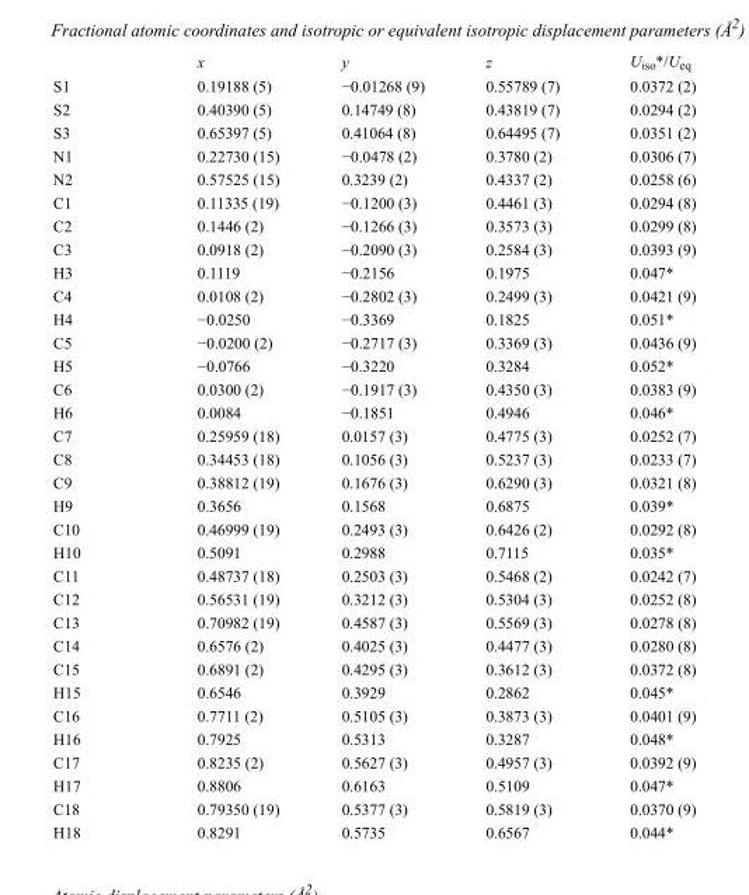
<table><thead><tr><td></td><td>x</td><td>y</td><td>z</td><td>U<sub>iso</sub>*/U<sub>eq</sub></td></tr></thead><tbody><tr><td>S1</td><td>0.19188 (5)</td><td>−0.01268 (9)</td><td>0.55789 (7)</td><td>0.0372 (2)</td></tr><tr><td>S2</td><td>0.40390 (5)</td><td>0.14749 (8)</td><td>0.43819 (7)</td><td>0.0294 (2)</td></tr><tr><td>S3</td><td>0.65397 (5)</td><td>0.41064 (8)</td><td>0.64495 (7)</td><td>0.0351 (2)</td></tr><tr><td>N1</td><td>0.22730 (15)</td><td>−0.0478 (2)</td><td>0.3780 (2)</td><td>0.0306 (7)</td></tr><tr><td>N2</td><td>0.57525 (15)</td><td>0.3239 (2)</td><td>0.4337 (2)</td><td>0.0258 (6)</td></tr><tr><td>C1</td><td>0.11335 (19)</td><td>−0.1200 (3)</td><td>0.4461 (3)</td><td>0.0294 (8)</td></tr><tr><td>C2</td><td>0.1446 (2)</td><td>−0.1266 (3)</td><td>0.3573 (3)</td><td>0.0299 (8)</td></tr><tr><td>C3</td><td>0.0918 (2)</td><td>−0.2090 (3)</td><td>0.2584 (3)</td><td>0.0393 (9)</td></tr><tr><td>H3</td><td>0.1119</td><td>−0.2156</td><td>0.1975</td><td>0.047*</td></tr><tr><td>C4</td><td>0.0108 (2)</td><td>−0.2802 (3)</td><td>0.2499 (3)</td><td>0.0421 (9)</td></tr><tr><td>H4</td><td>−0.0250</td><td>−0.3369</td><td>0.1825</td><td>0.051*</td></tr><tr><td>C5</td><td>−0.0200 (2)</td><td>−0.2717 (3)</td><td>0.3369 (3)</td><td>0.0436 (9)</td></tr><tr><td>H5</td><td>−0.0766</td><td>−0.3220</td><td>0.3284</td><td>0.052*</td></tr><tr><td>C6</td><td>0.0300 (2)</td><td>−0.1917 (3)</td><td>0.4350 (3)</td><td>0.0383 (9)</td></tr><tr><td>H6</td><td>0.0084</td><td>−0.1851</td><td>0.4946</td><td>0.046*</td></tr><tr><td>C7</td><td>0.25959 (18)</td><td>0.0157 (3)</td><td>0.4775 (3)</td><td>0.0252 (7)</td></tr><tr><td>C8</td><td>0.34453 (18)</td><td>0.1056 (3)</td><td>0.5237 (3)</td><td>0.0233 (7)</td></tr><tr><td>C9</td><td>0.38812 (19)</td><td>0.1676 (3)</td><td>0.6290 (3)</td><td>0.0321 (8)</td></tr><tr><td>H9</td><td>0.3656</td><td>0.1568</td><td>0.6875</td><td>0.039*</td></tr><tr><td>C10</td><td>0.46999 (19)</td><td>0.2493 (3)</td><td>0.6426 (2)</td><td>0.0292 (8)</td></tr><tr><td>H10</td><td>0.5091</td><td>0.2988</td><td>0.7115</td><td>0.035*</td></tr><tr><td>C11</td><td>0.48737 (18)</td><td>0.2503 (3)</td><td>0.5468 (2)</td><td>0.0242 (7)</td></tr><tr><td>C12</td><td>0.56531 (19)</td><td>0.3212 (3)</td><td>0.5304 (3)</td><td>0.0252 (8)</td></tr><tr><td>C13</td><td>0.70982 (19)</td><td>0.4587 (3)</td><td>0.5569 (3)</td><td>0.0278 (8)</td></tr><tr><td>C14</td><td>0.6576 (2)</td><td>0.4025 (3)</td><td>0.4477 (3)</td><td>0.0280 (8)</td></tr><tr><td>C15</td><td>0.6891 (2)</td><td>0.4295 (3)</td><td>0.3612 (3)</td><td>0.0372 (8)</td></tr><tr><td>H15</td><td>0.6546</td><td>0.3929</td><td>0.2862</td><td>0.045*</td></tr><tr><td>C16</td><td>0.7711 (2)</td><td>0.5105 (3)</td><td>0.3873 (3)</td><td>0.0401 (9)</td></tr><tr><td>H16</td><td>0.7925</td><td>0.5313</td><td>0.3287</td><td>0.048*</td></tr><tr><td>C17</td><td>0.8235 (2)</td><td>0.5627 (3)</td><td>0.4957 (3)</td><td>0.0392 (9)</td></tr><tr><td>H17</td><td>0.8806</td><td>0.6163</td><td>0.5109</td><td>0.047*</td></tr><tr><td>C18</td><td>0.79350 (19)</td><td>0.5377 (3)</td><td>0.5819 (3)</td><td>0.0370 (9)</td></tr><tr><td>H18</td><td>0.8291</td><td>0.5735</td><td>0.6567</td><td>0.044*</td></tr></tbody></table>